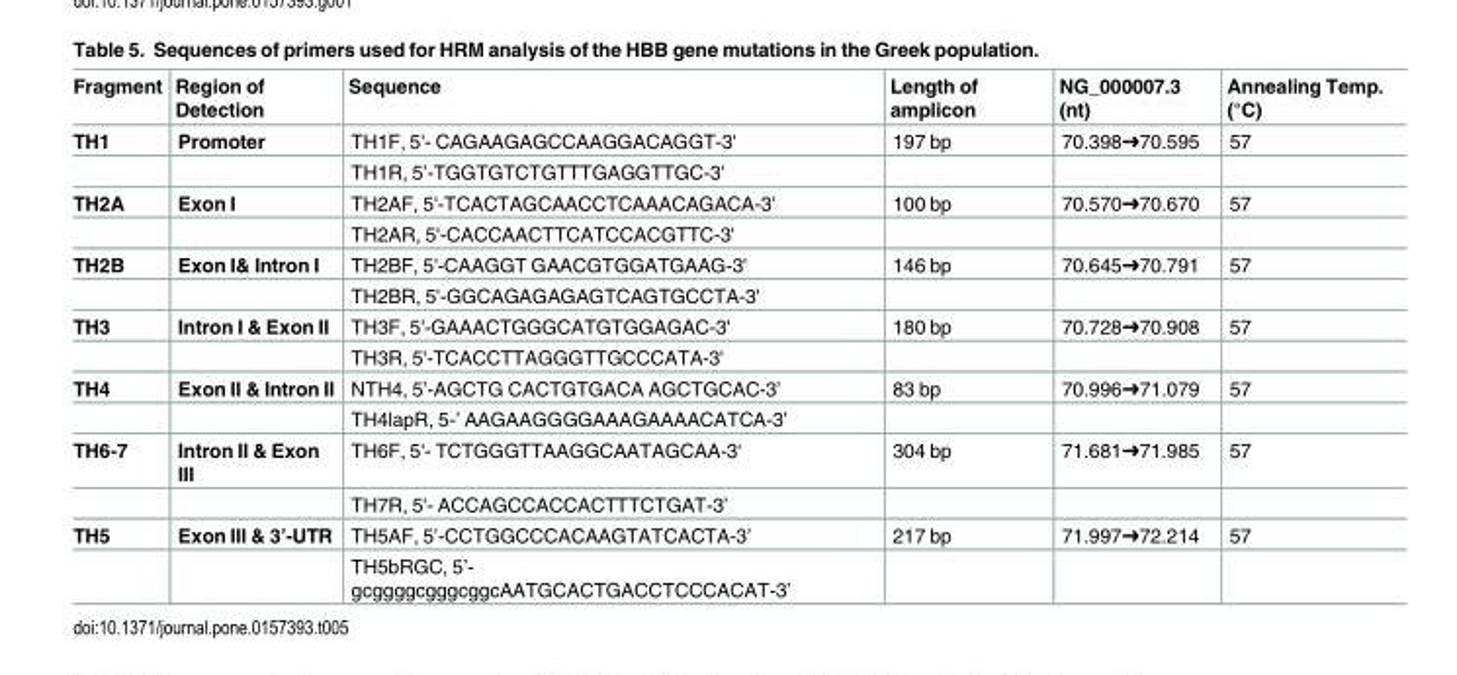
<table><thead><tr><td>Fragment</td><td>Region of Detection</td><td>Sequence</td><td>Length of amplicon</td><td>NG_000007.3 (nt)</td><td>Annealing Temp. (°C)</td></tr></thead><tbody><tr><td rowspan="2">TH1</td><td>Promoter</td><td>TH1F, 5&#x27;- CAGAAGAGCCAAGGACAGGT-3&#x27;</td><td>197 bp</td><td>70.398➜70.595</td><td>57</td></tr><tr><td></td><td>TH1R, 5’-TGGTGTCTGTTTGAGGTTGC-3&#x27;</td><td></td><td></td><td></td></tr><tr><td rowspan="2">TH2A</td><td>Exon I</td><td>TH2AF, 5&#x27;-TCACTAGCAACCTCAAACAGACA-3&#x27;</td><td>100 bp</td><td>70.570➜70.670</td><td>57</td></tr><tr><td></td><td>TH2AR, 5&#x27;-CACCAACTTCATCCACGTTC-3&#x27;</td><td></td><td></td><td></td></tr><tr><td rowspan="2">TH2B</td><td>Exon I&amp; Intron I</td><td>TH2BF, 5&#x27;-CAAGGT GAACGTGGATGAAG-3&#x27;</td><td>146 bp</td><td>70.645➜70.791</td><td>57</td></tr><tr><td></td><td>TH2BR, 5&#x27;-GGCAGAGAGAGTCAGTGCCTA-3&#x27;</td><td></td><td></td><td></td></tr><tr><td rowspan="2">TH3</td><td>Intron I &amp; Exon II</td><td>TH3F, 5&#x27;-GAAACTGGGCATGTGGAGAC-3&#x27;</td><td>180 bp</td><td>70.728➜70.908</td><td>57</td></tr><tr><td></td><td>TH3R, 5&#x27;-TCACCTTAGGGTTGCCCATA-3&#x27;</td><td></td><td></td><td></td></tr><tr><td rowspan="2">TH4</td><td>Exon II &amp; Intron II</td><td>NTH4, 5’-AGCTG CACTGTGACA AGCTGCAC-3’</td><td>83 bp</td><td>70.996➜71.079</td><td>57</td></tr><tr><td></td><td>TH4lapR, 5-’ AAGAAGGGGAAAGAAAACATCA-3’</td><td></td><td></td><td></td></tr><tr><td rowspan="2">TH6-7</td><td>Intron II &amp; Exon III</td><td>TH6F, 5&#x27;- TCTGGGTTAAGGCAATAGCAA-3‘</td><td>304 bp</td><td>71.681➜71.985</td><td>57</td></tr><tr><td></td><td>TH7R, 5&#x27;- ACCAGCCACCACTTTCTGAT-3’</td><td></td><td></td><td></td></tr><tr><td rowspan="2">TH5</td><td>Exon III &amp; 3’-UTR</td><td>TH5AF, 5’-CCTGGCCCACAAGTATCACTA-3’</td><td>217 bp</td><td>71.997➜72.214</td><td>57</td></tr><tr><td></td><td>TH5bRGC, 5’- gcggggcgggcggcAATGCACTGACCTCCCACAT-3’</td><td></td><td></td><td></td></tr></tbody></table>